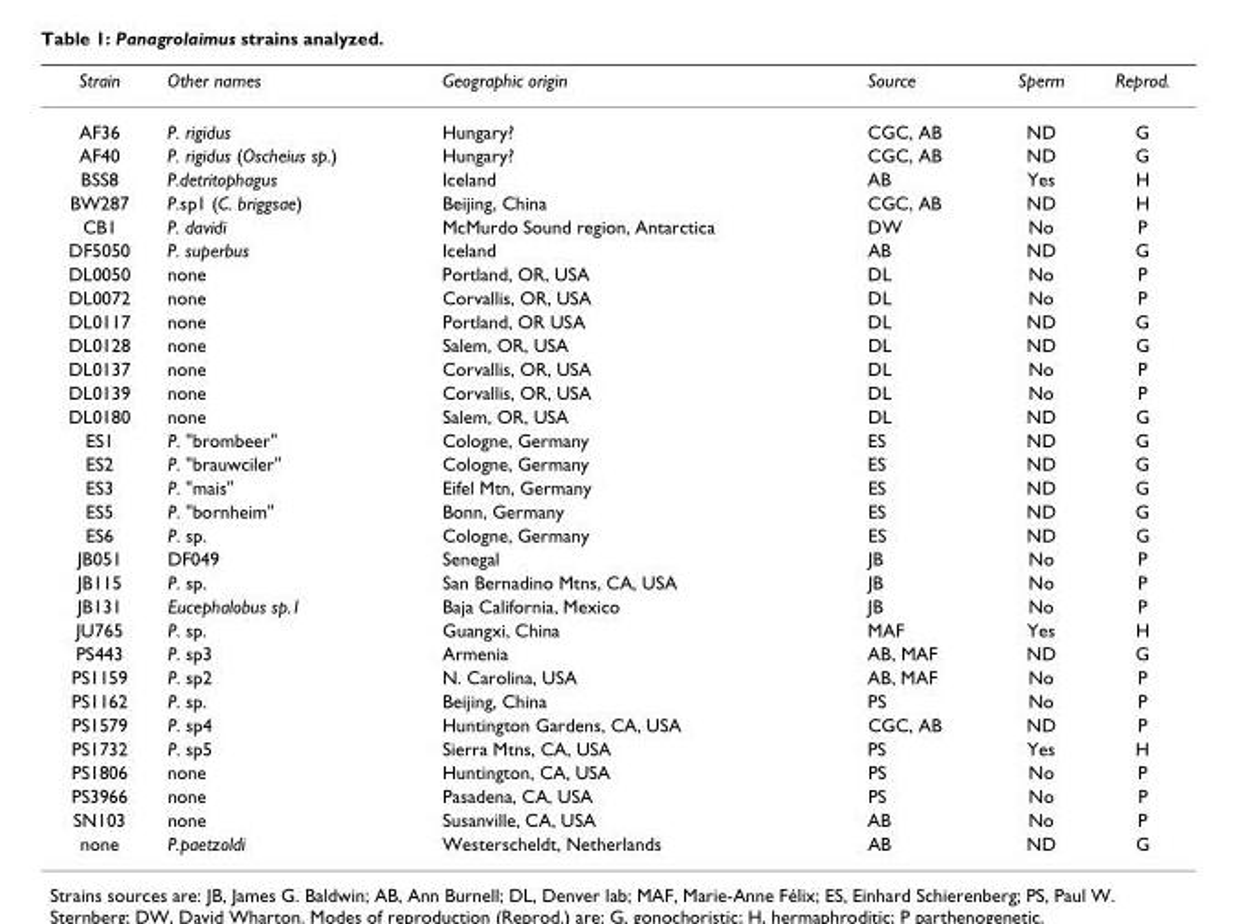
<table><thead><tr><td>Strain</td><td>Other names</td><td>Geographic origin</td><td>Source</td><td>Sperm</td><td>Reprod.</td></tr></thead><tbody><tr><td>AF36</td><td>P. rigidus</td><td>Hungary?</td><td>CGC, AB</td><td>ND</td><td>G</td></tr><tr><td>AF40</td><td>P. rigidus (Oscheius sp.)</td><td>Hungary?</td><td>CGC, AB</td><td>ND</td><td>G</td></tr><tr><td>BSS8</td><td>P.detritophagus</td><td>Iceland</td><td>AB</td><td>Yes</td><td>H</td></tr><tr><td>BW287</td><td>P.sp1 (C. briggsae)</td><td>Beijing, China</td><td>CGC, AB</td><td>ND</td><td>H</td></tr><tr><td>CB1</td><td>P. davidi</td><td>McMurdo Sound region, Antarctica</td><td>DW</td><td>No</td><td>P</td></tr><tr><td>DF5050</td><td>P. superbus</td><td>Iceland</td><td>AB</td><td>ND</td><td>G</td></tr><tr><td>DL0050</td><td>none</td><td>Portland, OR, USA</td><td>DL</td><td>No</td><td>P</td></tr><tr><td>DL0072</td><td>none</td><td>Corvallis, OR, USA</td><td>DL</td><td>No</td><td>P</td></tr><tr><td>DL0117</td><td>none</td><td>Portland, OR USA</td><td>DL</td><td>ND</td><td>G</td></tr><tr><td>DL0128</td><td>none</td><td>Salem, OR, USA</td><td>DL</td><td>ND</td><td>G</td></tr><tr><td>DL0137</td><td>none</td><td>Corvallis, OR, USA</td><td>DL</td><td>No</td><td>P</td></tr><tr><td>DL0139</td><td>none</td><td>Corvallis, OR, USA</td><td>DL</td><td>No</td><td>P</td></tr><tr><td>DL0180</td><td>none</td><td>Salem, OR, USA</td><td>DL</td><td>ND</td><td>G</td></tr><tr><td>ES1</td><td>P. &quot;brombeer&quot;</td><td>Cologne, Germany</td><td>ES</td><td>ND</td><td>G</td></tr><tr><td>ES2</td><td>P. &quot;brauwciler&quot;</td><td>Cologne, Germany</td><td>ES</td><td>ND</td><td>G</td></tr><tr><td>ES3</td><td>P. &quot;mais&quot;</td><td>Eifel Mtn, Germany</td><td>ES</td><td>ND</td><td>G</td></tr><tr><td>ES5</td><td>P. &quot;bornheim&quot;</td><td>Bonn, Germany</td><td>ES</td><td>ND</td><td>G</td></tr><tr><td>ES6</td><td>P. sp.</td><td>Cologne, Germany</td><td>ES</td><td>ND</td><td>G</td></tr><tr><td>JB051</td><td>DF049</td><td>Senegal</td><td>JB</td><td>No</td><td>P</td></tr><tr><td>JB115</td><td>P. sp.</td><td>San Bernadino Mtns, CA, USA</td><td>JB</td><td>No</td><td>P</td></tr><tr><td>JB131</td><td>Eucephalobus sp.1</td><td>Baja California, Mexico</td><td>JB</td><td>No</td><td>P</td></tr><tr><td>JU765</td><td>P. sp.</td><td>Guangxi, China</td><td>MAF</td><td>Yes</td><td>H</td></tr><tr><td>PS443</td><td>P. sp3</td><td>Armenia</td><td>AB, MAF</td><td>ND</td><td>G</td></tr><tr><td>PS1159</td><td>P. sp2</td><td>N. Carolina, USA</td><td>AB, MAF</td><td>No</td><td>P</td></tr><tr><td>PS1162</td><td>P. sp.</td><td>Beijing, China</td><td>PS</td><td>No</td><td>P</td></tr><tr><td>PS1579</td><td>P. sp4</td><td>Huntington Gardens, CA, USA</td><td>CGC, AB</td><td>ND</td><td>P</td></tr><tr><td>PS1732</td><td>P. sp5</td><td>Sierra Mtns, CA, USA</td><td>PS</td><td>Yes</td><td>H</td></tr><tr><td>PS1806</td><td>none</td><td>Huntington, CA, USA</td><td>PS</td><td>No</td><td>P</td></tr><tr><td>PS3966</td><td>none</td><td>Pasadena, CA, USA</td><td>PS</td><td>No</td><td>P</td></tr><tr><td>SN103</td><td>none</td><td>Susanville, CA, USA</td><td>AB</td><td>No</td><td>P</td></tr><tr><td>none</td><td>P.paetzoldi</td><td>Westerscheldt, Netherlands</td><td>AB</td><td>ND</td><td>G</td></tr></tbody></table>